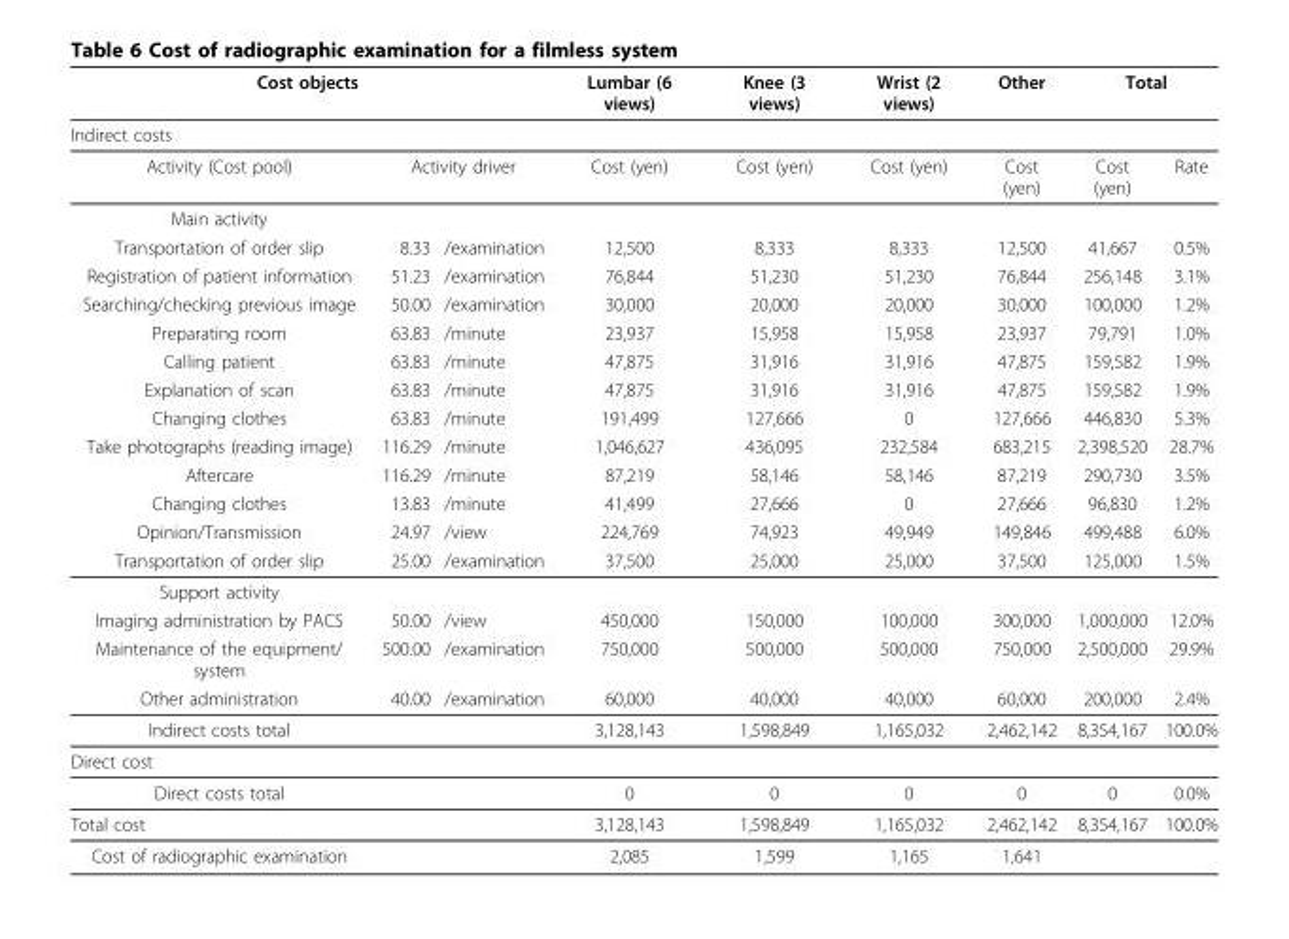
<table><thead><tr><td colspan="3">Cost objects</td><td rowspan="2">Lumbar (6 views)</td><td rowspan="2">Knee (3 views)</td><td rowspan="2">Wrist (2 views)</td><td rowspan="2">Other</td><td colspan="2">Total</td></tr><tr><td>Indirect costs</td><td></td><td></td><td></td><td></td></tr></thead><tbody><tr><td>Activity (Cost pool)</td><td colspan="2">Activity driver</td><td>Cost (yen)</td><td>Cost (yen)</td><td>Cost (yen)</td><td>Cost (yen)</td><td>Cost (yen)</td><td>Rate</td></tr><tr><td colspan="9">Main activity</td></tr><tr><td>Transportation of order slip</td><td>8.33</td><td>/examination</td><td>12,500</td><td>8,333</td><td>8,333</td><td>12,500</td><td>41,667</td><td>0.5%</td></tr><tr><td>Registration of patient information</td><td>51.23</td><td>/examination</td><td>76,844</td><td>51,230</td><td>51,230</td><td>76,844</td><td>256,148</td><td>3.1%</td></tr><tr><td>Searching/checking previous image</td><td>50.00</td><td>/examination</td><td>30,000</td><td>20,000</td><td>20,000</td><td>30,000</td><td>100,000</td><td>1.2%</td></tr><tr><td>Preparating room</td><td>63.83</td><td>/minute</td><td>23,937</td><td>15,958</td><td>15,958</td><td>23,937</td><td>79,791</td><td>1.0%</td></tr><tr><td>Calling patient</td><td>63.83</td><td>/minute</td><td>47,875</td><td>31,916</td><td>31,916</td><td>47,875</td><td>159,582</td><td>1.9%</td></tr><tr><td>Explanation of scan</td><td>63.83</td><td>/minute</td><td>47,875</td><td>31,916</td><td>31,916</td><td>47,875</td><td>159,582</td><td>1.9%</td></tr><tr><td>Changing clothes</td><td>63.83</td><td>/minute</td><td>191,499</td><td>127,666</td><td>0</td><td>127,666</td><td>446,830</td><td>5.3%</td></tr><tr><td>Take photographs (reading image)</td><td>116.29</td><td>/minute</td><td>1,046,627</td><td>436,095</td><td>232,584</td><td>683,215</td><td>2,398,520</td><td>28.7%</td></tr><tr><td>Aftercare</td><td>116.29</td><td>/minute</td><td>87,219</td><td>58,146</td><td>58,146</td><td>87,219</td><td>290,730</td><td>3.5%</td></tr><tr><td>Changing clothes</td><td>13.83</td><td>/minute</td><td>41,499</td><td>27,666</td><td>0</td><td>27,666</td><td>96,830</td><td>1.2%</td></tr><tr><td>Opinion/Transmission</td><td>24.97</td><td>/view</td><td>224,769</td><td>74,923</td><td>49,949</td><td>149,846</td><td>499,488</td><td>6.0%</td></tr><tr><td>Transportation of order slip</td><td>25.00</td><td>/examination</td><td>37,500</td><td>25,000</td><td>25,000</td><td>37,500</td><td>125,000</td><td>1.5%</td></tr><tr><td colspan="9">Support activity</td></tr><tr><td>Imaging administration by PACS</td><td>50.00</td><td>/view</td><td>450,000</td><td>150,000</td><td>100,000</td><td>300,000</td><td>1,000,000</td><td>12.0%</td></tr><tr><td>Maintenance of the equipment/ system</td><td>500.00</td><td>/examination</td><td>750,000</td><td>500,000</td><td>500,000</td><td>750,000</td><td>2,500,000</td><td>29.9%</td></tr><tr><td>Other administration</td><td>40.00</td><td>/examination</td><td>60,000</td><td>40,000</td><td>40,000</td><td>60,000</td><td>200,000</td><td>2.4%</td></tr><tr><td>Indirect costs total</td><td></td><td></td><td>3,128,143</td><td>1,598,849</td><td>1,165,032</td><td>2,462,142</td><td>8,354,167</td><td>100.0%</td></tr><tr><td colspan="9">Direct cost</td></tr><tr><td>Direct costs total</td><td></td><td></td><td>0</td><td>0</td><td>0</td><td>0</td><td>0</td><td>0.0%</td></tr><tr><td>Total cost</td><td></td><td></td><td>3,128,143</td><td>1,598,849</td><td>1,165,032</td><td>2,462,142</td><td>8,354,167</td><td>100.0%</td></tr><tr><td>Cost of radiographic examination</td><td></td><td></td><td>2,085</td><td>1,599</td><td>1,165</td><td>1,641</td><td></td><td></td></tr></tbody></table>